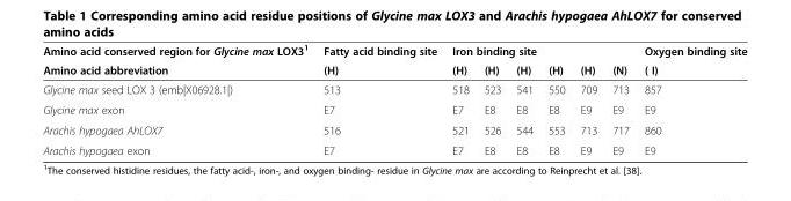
<table><thead><tr><td rowspan="2">Amino acid conserved region for Glycine max LOX3<sup>1</sup> Amino acid abbreviation</td><td rowspan="2">Fatty acid binding site (H)</td><td colspan="6">Iron binding site</td><td rowspan="2">Oxygen binding site ( I)</td></tr><tr><td>(H)</td><td>(H)</td><td>(H)</td><td>(H)</td><td>(H)</td><td>(N)</td></tr></thead><tbody><tr><td>Glycine max seed LOX 3 (emb|X06928.1|)</td><td>513</td><td>518</td><td>523</td><td>541</td><td>550</td><td>709</td><td>713</td><td>857</td></tr><tr><td>Glycine max exon</td><td>E7</td><td>E7</td><td>E8</td><td>E8</td><td>E8</td><td>E9</td><td>E9</td><td>E9</td></tr><tr><td>Arachis hypogaea AhLOX7</td><td>516</td><td>521</td><td>526</td><td>544</td><td>553</td><td>713</td><td>717</td><td>860</td></tr><tr><td>Arachis hypogaea exon</td><td>E7</td><td>E7</td><td>E8</td><td>E8</td><td>E8</td><td>E9</td><td>E9</td><td>E9</td></tr></tbody></table>